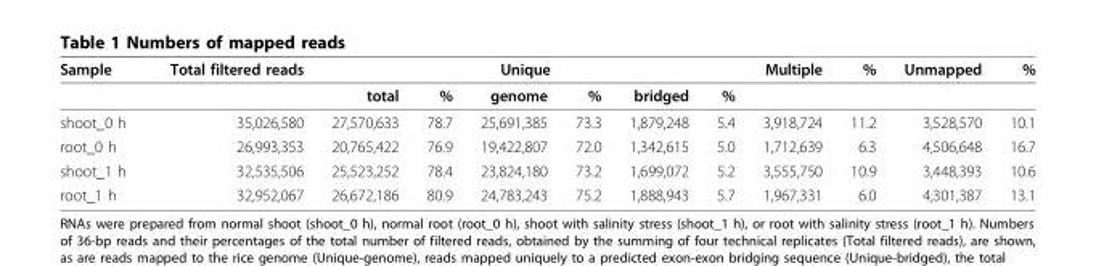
<table><thead><tr><td rowspan="2">Sample</td><td rowspan="2">Total filtered reads</td><td colspan="6">Unique</td><td rowspan="2">Multiple</td><td rowspan="2">%</td><td rowspan="2">Unmapped</td><td rowspan="2">%</td></tr><tr><td>total</td><td>%</td><td>genome</td><td>%</td><td>bridged</td><td>%</td></tr></thead><tbody><tr><td>shoot_0 h</td><td>35,026,580</td><td>27,570,633</td><td>78.7</td><td>25,691,385</td><td>73.3</td><td>1,879,248</td><td>5.4</td><td>3,918,724</td><td>11.2</td><td>3,528,570</td><td>10.1</td></tr><tr><td>root_0 h</td><td>26,993,353</td><td>20,765,422</td><td>76.9</td><td>19,422,807</td><td>72.0</td><td>1,342,615</td><td>5.0</td><td>1,712,639</td><td>6.3</td><td>4,506,648</td><td>16.7</td></tr><tr><td>shoot_1 h</td><td>32,535,506</td><td>25,523,252</td><td>78.4</td><td>23,824,180</td><td>73.2</td><td>1,699,072</td><td>5.2</td><td>3,555,750</td><td>10.9</td><td>3,448,393</td><td>10.6</td></tr><tr><td>root_1 h</td><td>32,952,067</td><td>26,672,186</td><td>80.9</td><td>24,783,243</td><td>75.2</td><td>1,888,943</td><td>5.7</td><td>1,967,331</td><td>6.0</td><td>4,301,387</td><td>13.1</td></tr></tbody></table>